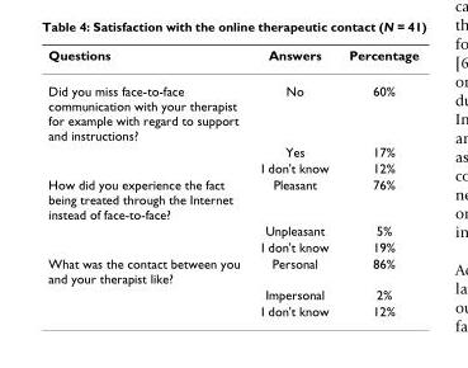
<table><thead><tr><td>Questions</td><td>Answers</td><td>Percentage</td></tr></thead><tbody><tr><td rowspan="3">Did you miss face-to-face communication with your therapist for example with regard to support and instructions?</td><td>No</td><td>60%</td></tr><tr><td>Yes</td><td>17%</td></tr><tr><td>I don&#x27;t know</td><td>12%</td></tr><tr><td rowspan="3">How did you experience the fact being treated through the Internet instead of face-to-face?</td><td>Pleasant</td><td>76%</td></tr><tr><td>Unpleasant</td><td>5%</td></tr><tr><td>I don&#x27;t know</td><td>19%</td></tr><tr><td rowspan="3">What was the contact between you and your therapist like?</td><td>Personal</td><td>86%</td></tr><tr><td>Impersonal</td><td>2%</td></tr><tr><td>I don&#x27;t know</td><td>12%</td></tr></tbody></table>